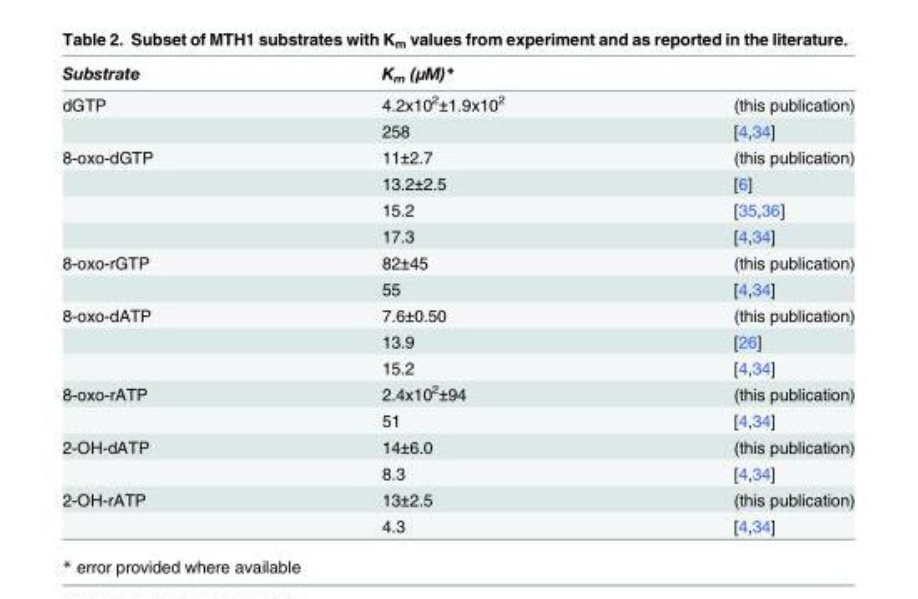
<table><thead><tr><td rowspan="2">Substrate dGTP</td><td colspan="2">K<sub>m</sub> (μM)*</td></tr><tr><td>4.2x10<sup>2</sup>±1.9x10<sup>2</sup></td><td>(this publication)</td></tr></thead><tbody><tr><td></td><td>258</td><td>[4,34]</td></tr><tr><td rowspan="4">8-oxo-dGTP</td><td>11±2.7</td><td>(this publication)</td></tr><tr><td>13.2±2.5</td><td>[6]</td></tr><tr><td>15.2</td><td>[35,36]</td></tr><tr><td>17.3</td><td>[4,34]</td></tr><tr><td rowspan="2">8-oxo-rGTP</td><td>82±45</td><td>(this publication)</td></tr><tr><td>55</td><td>[4,34]</td></tr><tr><td rowspan="3">8-oxo-dATP</td><td>7.6±0.50</td><td>(this publication)</td></tr><tr><td>13.9</td><td>[26]</td></tr><tr><td>15.2</td><td>[4,34]</td></tr><tr><td rowspan="2">8-oxo-rATP</td><td>2.4x10<sup>2</sup>±94</td><td>(this publication)</td></tr><tr><td>51</td><td>[4,34]</td></tr><tr><td rowspan="2">2-OH-dATP</td><td>14±6.0</td><td>(this publication)</td></tr><tr><td>8.3</td><td>[4,34]</td></tr><tr><td rowspan="2">2-OH-rATP</td><td>13±2.5</td><td>(this publication)</td></tr><tr><td>4.3</td><td>[4,34]</td></tr></tbody></table>